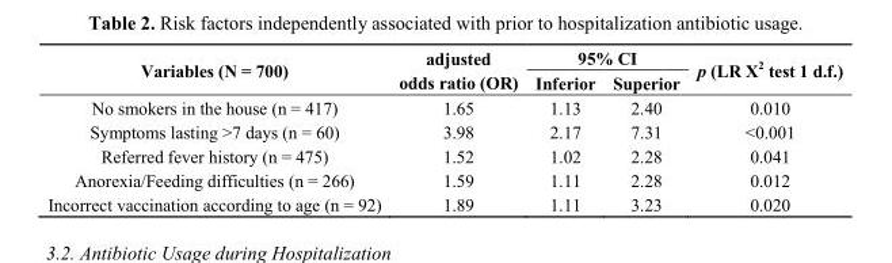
<table><thead><tr><td rowspan="2">Variables (N = 700)</td><td rowspan="2">adjusted odds ratio (OR)</td><td colspan="2">95% CI</td><td rowspan="2">p (LR X<sup>2</sup> test 1 d.f.)</td></tr><tr><td>Inferior</td><td>Superior</td></tr></thead><tbody><tr><td>No smokers in the house (n = 417)</td><td>1.65</td><td>1.13</td><td>2.40</td><td>0.010</td></tr><tr><td>Symptoms lasting &gt;7 days (n = 60)</td><td>3.98</td><td>2.17</td><td>7.31</td><td>&lt;0.001</td></tr><tr><td>Referred fever history (n = 475)</td><td>1.52</td><td>1.02</td><td>2.28</td><td>0.041</td></tr><tr><td>Anorexia/Feeding difficulties (n = 266)</td><td>1.59</td><td>1.11</td><td>2.28</td><td>0.012</td></tr><tr><td>Incorrect vaccination according to age (n = 92)</td><td>1.89</td><td>1.11</td><td>3.23</td><td>0.020</td></tr></tbody></table>